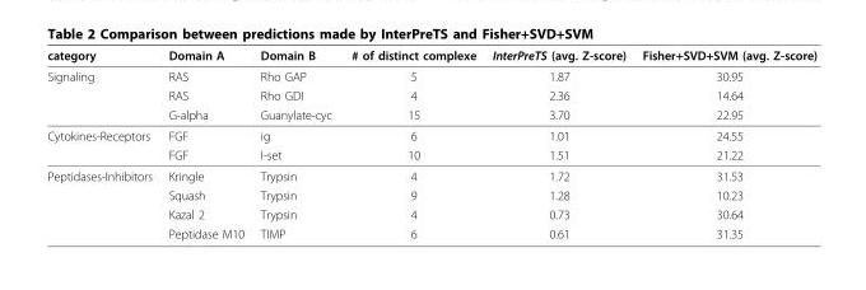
<table><thead><tr><td>category</td><td>Domain A</td><td>Domain B</td><td># of distinct complexe</td><td>InterPreTS (avg. Z-score)</td><td>Fisher+SVD+SVM (avg. Z-score)</td></tr></thead><tbody><tr><td rowspan="3">Signaling</td><td>RAS</td><td>Rho GAP</td><td>5</td><td>1.87</td><td>30.95</td></tr><tr><td>RAS</td><td>Rho GDI</td><td>4</td><td>2.36</td><td>14.64</td></tr><tr><td>G-alpha</td><td>Guanylate-cyc</td><td>15</td><td>3.70</td><td>22.95</td></tr><tr><td rowspan="2">Cytokines-Receptors</td><td>FGF</td><td>ig</td><td>6</td><td>1.01</td><td>24.55</td></tr><tr><td>FGF</td><td>I-set</td><td>10</td><td>1.51</td><td>21.22</td></tr><tr><td rowspan="4">Peptidases-Inhibitors</td><td>Kringle</td><td>Trypsin</td><td>4</td><td>1.72</td><td>31.53</td></tr><tr><td>Squash</td><td>Trypsin</td><td>9</td><td>1.28</td><td>10.23</td></tr><tr><td>Kazal 2</td><td>Trypsin</td><td>4</td><td>0.73</td><td>30.64</td></tr><tr><td>Peptidase M10</td><td>TIMP</td><td>6</td><td>0.61</td><td>31.35</td></tr></tbody></table>